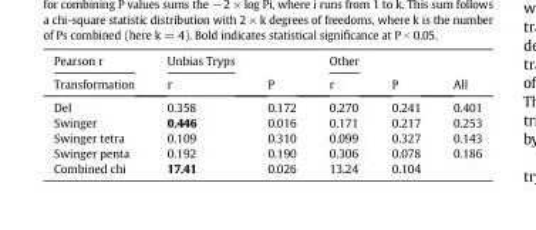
<table><thead><tr><td rowspan="2">Pearson r Transformation</td><td rowspan="2">Unbias Tryps r</td><td rowspan="2">P</td><td rowspan="2">Other r</td><td rowspan="2">P</td><td rowspan="2">All</td></tr><tr></tr></thead><tbody><tr><td>Del</td><td>0.358</td><td>0.172</td><td>0.270</td><td>0.241</td><td>0.401</td></tr><tr><td>Swinger</td><td>0.446</td><td>0.016</td><td>0.171</td><td>0.217</td><td>0.253</td></tr><tr><td>Swinger tetra</td><td>0.109</td><td>0.310</td><td>0.099</td><td>0.327</td><td>0.143</td></tr><tr><td>Swinger penta</td><td>0.192</td><td>0.190</td><td>0.306</td><td>0.078</td><td>0.186</td></tr><tr><td>Combined chi</td><td>17.41</td><td>0.026</td><td>13.24</td><td>0.104</td><td></td></tr></tbody></table>